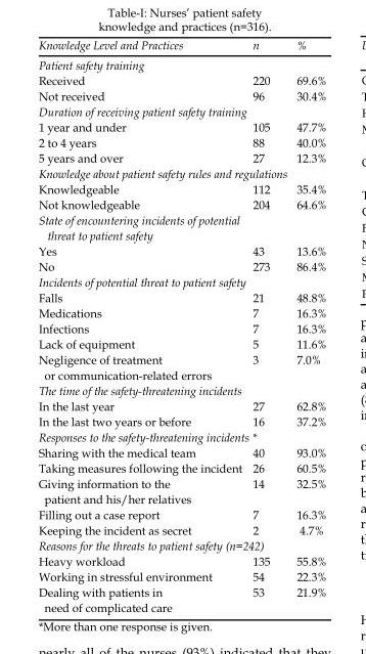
<table><thead><tr><td>Knowledge Level and Practices</td><td>n</td><td>%</td></tr></thead><tbody><tr><td colspan="3">Patient safety training</td></tr><tr><td>Received</td><td>220</td><td>69.6%</td></tr><tr><td>Not received</td><td>96</td><td>30.4%</td></tr><tr><td colspan="3">Duration of receiving patient safety training</td></tr><tr><td>1 year and under</td><td>105</td><td>47.7%</td></tr><tr><td>2 to 4 years</td><td>88</td><td>40.0%</td></tr><tr><td>5 years and over</td><td>27</td><td>12.3%</td></tr><tr><td colspan="3">Knowledge about patient safety rules and regulations</td></tr><tr><td>Knowledgeable</td><td>112</td><td>35.4%</td></tr><tr><td>Not knowledgeable</td><td>204</td><td>64.6%</td></tr><tr><td colspan="3">State of encountering incidents of potential threat to patient safety</td></tr><tr><td>Yes</td><td>43</td><td>13.6%</td></tr><tr><td>No</td><td>273</td><td>86.4%</td></tr><tr><td colspan="3">Incidents of potential threat to patient safety</td></tr><tr><td>Falls</td><td>21</td><td>48.8%</td></tr><tr><td>Medications</td><td>7</td><td>16.3%</td></tr><tr><td>Infections</td><td>7</td><td>16.3%</td></tr><tr><td>Lack of equipment</td><td>5</td><td>11.6%</td></tr><tr><td>Negligence of treatment or communication-related errors</td><td>3</td><td>7.0%</td></tr><tr><td colspan="3">The time of the safety-threatening incidents</td></tr><tr><td>In the last year</td><td>27</td><td>62.8%</td></tr><tr><td>In the last two years or before</td><td>16</td><td>37.2%</td></tr><tr><td colspan="3">Responses to the safety-threatening incidents *</td></tr><tr><td>Sharing with the medical team</td><td>40</td><td>93.0%</td></tr><tr><td>Taking measures following the incident</td><td>26</td><td>60.5%</td></tr><tr><td>Giving information to the patient and his/her relatives</td><td>14</td><td>32.5%</td></tr><tr><td>Filling out a case report</td><td>7</td><td>16.3%</td></tr><tr><td>Keeping the incident as secret</td><td>2</td><td>4.7%</td></tr><tr><td colspan="3">Reasons for the threats to patient safety (n=242)</td></tr><tr><td>Heavy workload</td><td>135</td><td>55.8%</td></tr><tr><td>Working in stressful environment</td><td>54</td><td>22.3%</td></tr><tr><td>Dealing with patients in need of complicated care</td><td>53</td><td>21.9%</td></tr></tbody></table>